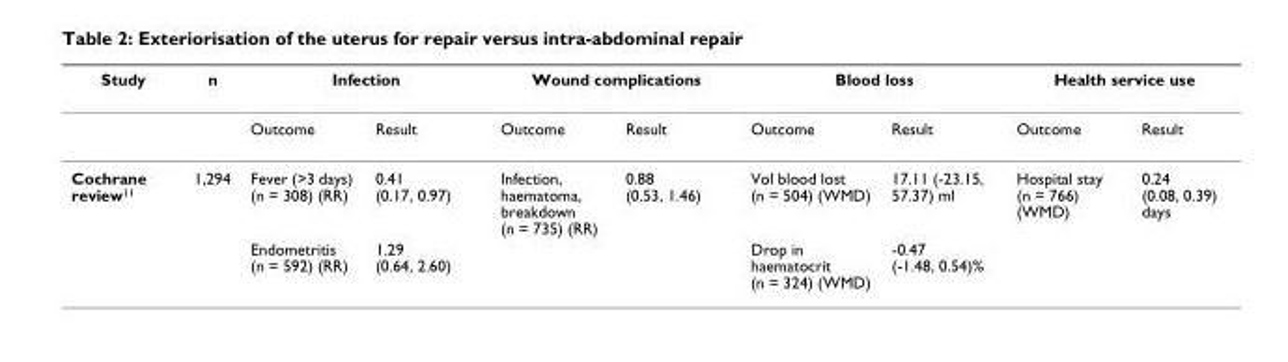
<table><thead><tr><td rowspan="2">Study</td><td rowspan="2">n</td><td colspan="2">Infection</td><td colspan="2">Wound complications</td><td colspan="2">Blood loss</td><td colspan="2">Health service use</td></tr><tr><td>Outcome</td><td>Result</td><td>Outcome</td><td>Result</td><td>Outcome</td><td>Result</td><td>Outcome</td><td>Result</td></tr></thead><tbody><tr><td rowspan="2">Cochrane review<sup>11</sup></td><td>1,294</td><td>Fever (&gt;3 days) (n = 308) (RR)</td><td>0.41 (0.17, 0.97)</td><td>Infection, haematoma, breakdown (n = 735) (RR)</td><td>0.88 (0.53, 1.46)</td><td>Vol blood lost (n = 504) (WMD)</td><td>17.11 (-23.15, 57.37) ml</td><td>Hospital stay (n = 766) (WMD)</td><td>0.24 (0.08, 0.39) days</td></tr><tr><td></td><td>Endometritis (n = 592) (RR)</td><td>1.29 (0.64, 2.60)</td><td></td><td></td><td>Drop in haematocrit (n = 324) (WMD)</td><td>-0.47 (-1.48, 0.54)%</td><td></td><td></td></tr></tbody></table>